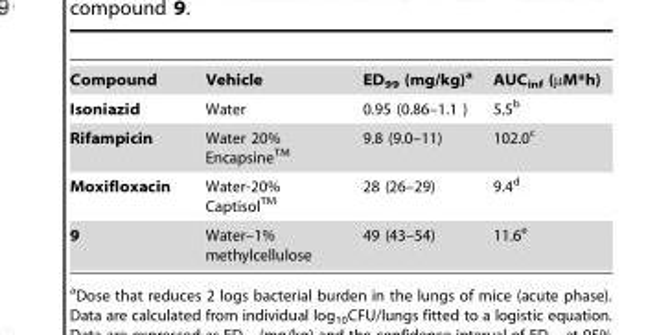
<table><tbody><tr><td>Compound</td><td>Vehicle</td><td>ED<sub>99</sub> (mg/kg)a</td><td>AUC<sub>inf</sub> (µM*h)</td></tr><tr><td>Isoniazid</td><td>Water</td><td>0.95 (0.86–1.1 )</td><td>5.5<sup>b</sup></td></tr><tr><td>Rifampicin</td><td>Water 20% EncapsineTM</td><td>9.8 (9.0–11)</td><td>102.0<sup>c</sup></td></tr><tr><td>Moxifloxacin</td><td>Water-20% CaptisolTM</td><td>28 (26–29)</td><td>9.4<sup>d</sup></td></tr><tr><td>9</td><td>Water–1% methylcellulose</td><td>49 (43–54)</td><td>11.6<sup>e</sup></td></tr></tbody></table>